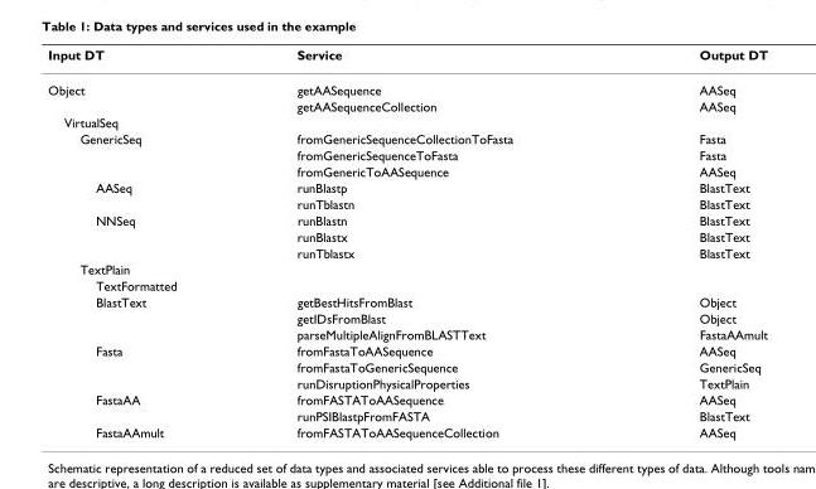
<table><thead><tr><td>Input DT</td><td>Service</td><td>Output DT</td></tr></thead><tbody><tr><td rowspan="2">Object</td><td>getAASequence</td><td>AASeq</td></tr><tr><td>getAASequenceCollection</td><td>AASeq</td></tr><tr><td colspan="3">VirtualSeq</td></tr><tr><td rowspan="3">GenericSeq</td><td>fromGenericSequenceCollectionToFasta</td><td>Fasta</td></tr><tr><td>fromGenericSequenceToFasta</td><td>Fasta</td></tr><tr><td>fromGenericToAASequence</td><td>AASeq</td></tr><tr><td rowspan="2">AASeq</td><td>runBlastp</td><td>BlastText</td></tr><tr><td>runTblastn</td><td>BlastText</td></tr><tr><td rowspan="3">NNSeq</td><td>runBlastn</td><td>BlastText</td></tr><tr><td>runBlastx</td><td>BlastText</td></tr><tr><td>runTblastx</td><td>BlastText</td></tr><tr><td colspan="3">TextPlain</td></tr><tr><td colspan="3">TextFormatted</td></tr><tr><td rowspan="3">BlastText</td><td>getBestHitsFromBlast</td><td>Object</td></tr><tr><td>getIDsFromBlast</td><td>Object</td></tr><tr><td>parseMultipleAlignFromBLASTText</td><td>FastaAAmult</td></tr><tr><td rowspan="3">Fasta</td><td>fromFastaToAASequence</td><td>AASeq</td></tr><tr><td>fromFastaToGenericSequence</td><td>GenericSeq</td></tr><tr><td>runDisruptionPhysicalProperties</td><td>TextPlain</td></tr><tr><td rowspan="2">FastaAA</td><td>fromFASTAToAASequence</td><td>AASeq</td></tr><tr><td>runPSIBlastpFromFASTA</td><td>BlastText</td></tr><tr><td>FastaAAmult</td><td>fromFASTAToAASequenceCollection</td><td>AASeq</td></tr></tbody></table>